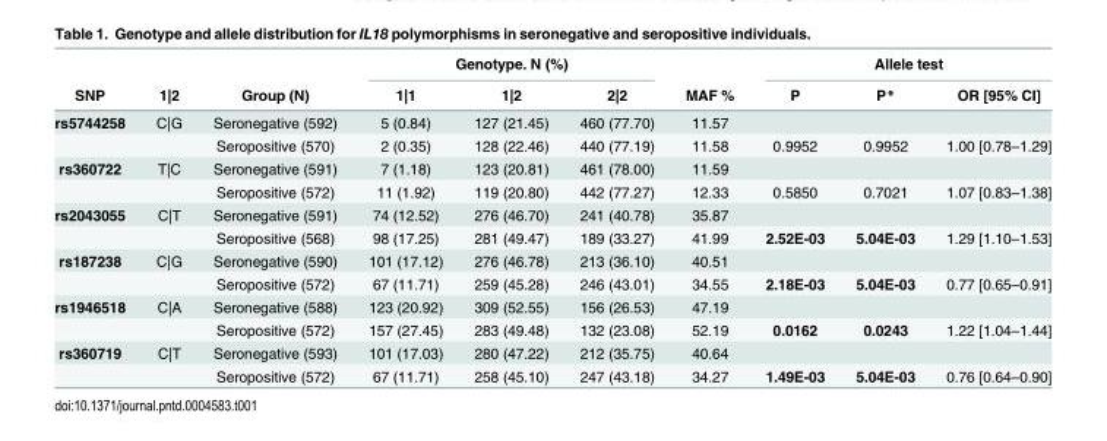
<table><thead><tr><td rowspan="2">SNP</td><td rowspan="2">1|2</td><td rowspan="2">Group (N)</td><td colspan="3">Genotype. N (%)</td><td rowspan="2">MAF %</td><td colspan="3">Allele test</td></tr><tr><td>1|1</td><td>1|2</td><td>2|2</td><td>P</td><td>P*</td><td>OR [95% CI]</td></tr></thead><tbody><tr><td rowspan="2">rs5744258</td><td>C|G</td><td>Seronegative (592)</td><td>5 (0.84)</td><td>127 (21.45)</td><td>460 (77.70)</td><td>11.57</td><td></td><td></td><td></td></tr><tr><td></td><td>Seropositive (570)</td><td>2 (0.35)</td><td>128 (22.46)</td><td>440 (77.19)</td><td>11.58</td><td>0.9952</td><td>0.9952</td><td>1.00 [0.78–1.29]</td></tr><tr><td rowspan="2">rs360722</td><td>T|C</td><td>Seronegative (591)</td><td>7 (1.18)</td><td>123 (20.81)</td><td>461 (78.00)</td><td>11.59</td><td></td><td></td><td></td></tr><tr><td></td><td>Seropositive (572)</td><td>11 (1.92)</td><td>119 (20.80)</td><td>442 (77.27)</td><td>12.33</td><td>0.5850</td><td>0.7021</td><td>1.07 [0.83–1.38]</td></tr><tr><td rowspan="2">rs2043055</td><td>C|T</td><td>Seronegative (591)</td><td>74 (12.52)</td><td>276 (46.70)</td><td>241 (40.78)</td><td>35.87</td><td></td><td></td><td></td></tr><tr><td></td><td>Seropositive (568)</td><td>98 (17.25)</td><td>281 (49.47)</td><td>189 (33.27)</td><td>41.99</td><td>2.52E-03</td><td>5.04E-03</td><td>1.29 [1.10–1.53]</td></tr><tr><td rowspan="2">rs187238</td><td>C|G</td><td>Seronegative (590)</td><td>101 (17.12)</td><td>276 (46.78)</td><td>213 (36.10)</td><td>40.51</td><td></td><td></td><td></td></tr><tr><td></td><td>Seropositive (572)</td><td>67 (11.71)</td><td>259 (45.28)</td><td>246 (43.01)</td><td>34.55</td><td>2.18E-03</td><td>5.04E-03</td><td>0.77 [0.65–0.91]</td></tr><tr><td rowspan="2">rs1946518</td><td>C|A</td><td>Seronegative (588)</td><td>123 (20.92)</td><td>309 (52.55)</td><td>156 (26.53)</td><td>47.19</td><td></td><td></td><td></td></tr><tr><td></td><td>Seropositive (572)</td><td>157 (27.45)</td><td>283 (49.48)</td><td>132 (23.08)</td><td>52.19</td><td>0.0162</td><td>0.0243</td><td>1.22 [1.04–1.44]</td></tr><tr><td rowspan="2">rs360719</td><td>C|T</td><td>Seronegative (593)</td><td>101 (17.03)</td><td>280 (47.22)</td><td>212 (35.75)</td><td>40.64</td><td></td><td></td><td></td></tr><tr><td></td><td>Seropositive (572)</td><td>67 (11.71)</td><td>258 (45.10)</td><td>247 (43.18)</td><td>34.27</td><td>1.49E-03</td><td>5.04E-03</td><td>0.76 [0.64–0.90]</td></tr></tbody></table>